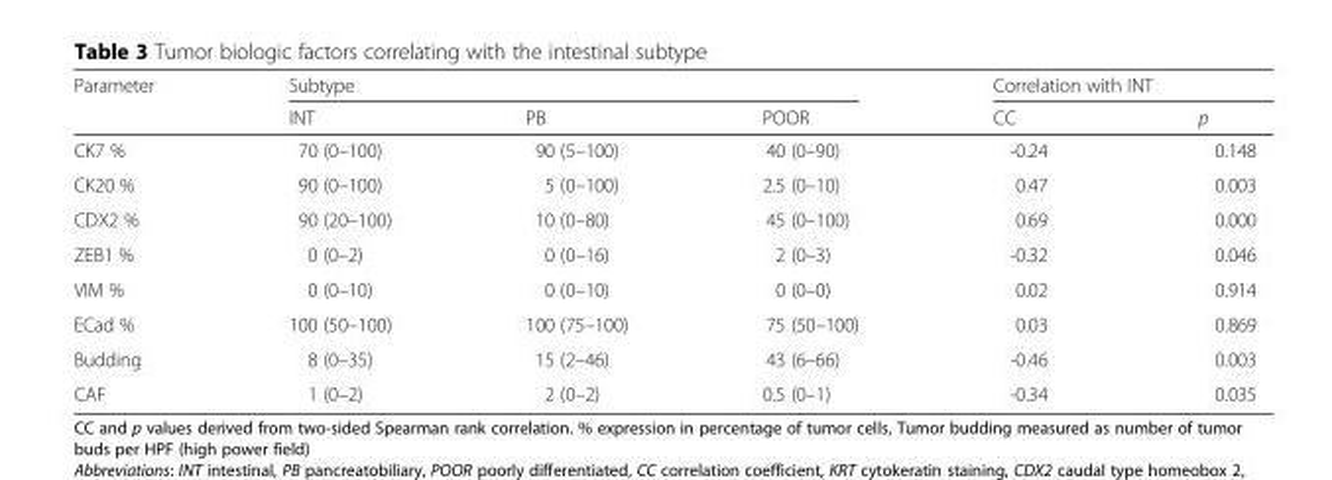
<table><thead><tr><td rowspan="2">Parameter</td><td colspan="3">Subtype</td><td colspan="2">Correlation with INT</td></tr><tr><td>INT</td><td>PB</td><td>POOR</td><td>CC</td><td>p</td></tr></thead><tbody><tr><td>CK7 %</td><td>70 (0–100)</td><td>90 (5–100)</td><td>40 (0–90)</td><td>-0.24</td><td>0.148</td></tr><tr><td>CK20 %</td><td>90 (0–100)</td><td>5 (0–100)</td><td>2.5 (0–10)</td><td>0.47</td><td>0.003</td></tr><tr><td>CDX2 %</td><td>90 (20–100)</td><td>10 (0–80)</td><td>45 (0–100)</td><td>0.69</td><td>0.000</td></tr><tr><td>ZEB1 %</td><td>0 (0–2)</td><td>0 (0–16)</td><td>2 (0–3)</td><td>-0.32</td><td>0.046</td></tr><tr><td>VIM %</td><td>0 (0–10)</td><td>0 (0–10)</td><td>0 (0–0)</td><td>0.02</td><td>0.914</td></tr><tr><td>ECad %</td><td>100 (50–100)</td><td>100 (75–100)</td><td>75 (50–100)</td><td>0.03</td><td>0.869</td></tr><tr><td>Budding</td><td>8 (0–35)</td><td>15 (2–46)</td><td>43 (6–66)</td><td>-0.46</td><td>0.003</td></tr><tr><td>CAF</td><td>1 (0–2)</td><td>2 (0–2)</td><td>0.5 (0–1)</td><td>-0.34</td><td>0.035</td></tr></tbody></table>